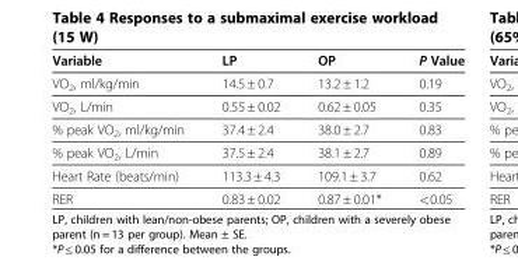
<table><thead><tr><td>Variable</td><td>LP</td><td>OP</td><td>P Value</td></tr></thead><tbody><tr><td>VO<sub>2</sub>, ml/kg/min</td><td>14.5 ± 0.7</td><td>13.2 ± 1.2</td><td>0.19</td></tr><tr><td>VO<sub>2</sub>, L/min</td><td>0.55 ± 0.02</td><td>0.62 ± 0.05</td><td>0.35</td></tr><tr><td>% peak VO<sub>2</sub>, ml/kg/min</td><td>37.4 ± 2.4</td><td>38.0 ± 2.7</td><td>0.83</td></tr><tr><td>% peak VO<sub>2</sub>, L/min</td><td>37.5 ± 2.4</td><td>38.1 ± 2.7</td><td>0.89</td></tr><tr><td>Heart Rate (beats/min)</td><td>113.3 ± 4.3</td><td>109.1 ± 3.7</td><td>0.62</td></tr><tr><td>RER</td><td>0.83 ± 0.02</td><td>0.87 ± 0.01*</td><td>&lt;0.05</td></tr></tbody></table>